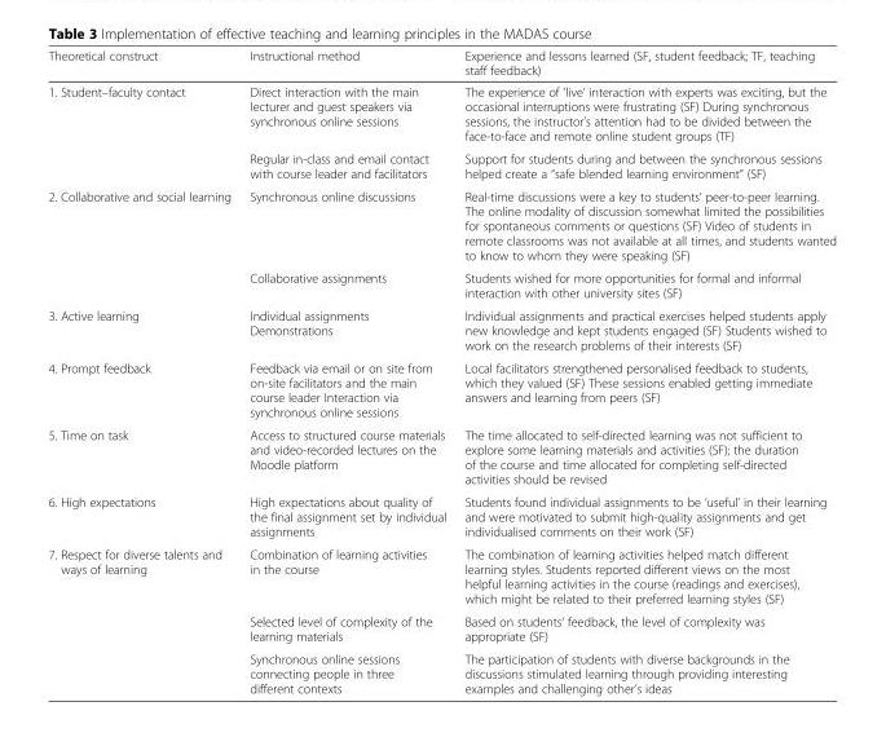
<table><thead><tr><td>Theoretical construct</td><td>Instructional method</td><td>Experience and lessons learned (SF, student feedback; TF, teaching staff feedback)</td></tr></thead><tbody><tr><td rowspan="2">1. Student–faculty contact</td><td>Direct interaction with the main lecturer and guest speakers via synchronous online sessions</td><td>The experience of ‘live’ interaction with experts was exciting, but the occasional interruptions were frustrating (SF) During synchronous sessions, the instructor’s attention had to be divided between the face-to-face and remote online student groups (TF)</td></tr><tr><td>Regular in-class and email contact with course leader and facilitators</td><td>Support for students during and between the synchronous sessions helped create a “safe blended learning environment” (SF)</td></tr><tr><td rowspan="2">2. Collaborative and social learning</td><td>Synchronous online discussions</td><td>Real-time discussions were a key to students’ peer-to-peer learning. The online modality of discussion somewhat limited the possibilities for spontaneous comments or questions (SF) Video of students in remote classrooms was not available at all times, and students wanted to know to whom they were speaking (SF)</td></tr><tr><td>Collaborative assignments</td><td>Students wished for more opportunities for formal and informal interaction with other university sites (SF)</td></tr><tr><td>3. Active learning</td><td>Individual assignments Demonstrations</td><td>Individual assignments and practical exercises helped students apply new knowledge and kept students engaged (SF) Students wished to work on the research problems of their interests (SF)</td></tr><tr><td>4. Prompt feedback</td><td>Feedback via email or on site from on-site facilitators and the main course leader Interaction via synchronous online sessions</td><td>Local facilitators strengthened personalised feedback to students, which they valued (SF) These sessions enabled getting immediate answers and learning from peers (SF)</td></tr><tr><td>5. Time on task</td><td>Access to structured course materials and video-recorded lectures on the Moodle platform</td><td>The time allocated to self-directed learning was not sufficient to explore some learning materials and activities (SF); the duration of the course and time allocated for completing self-directed activities should be revised</td></tr><tr><td>6. High expectations</td><td>High expectations about quality of the final assignment set by individual assignments</td><td>Students found individual assignments to be ‘useful’ in their learning and were motivated to submit high-quality assignments and get individualised comments on their work (SF)</td></tr><tr><td rowspan="3">7. Respect for diverse talents and ways of learning</td><td>Combination of learning activities in the course</td><td>The combination of learning activities helped match different learning styles. Students reported different views on the most helpful learning activities in the course (readings and exercises), which might be related to their preferred learning styles (SF)</td></tr><tr><td>Selected level of complexity of the learning materials</td><td>Based on students’ feedback, the level of complexity was appropriate (SF)</td></tr><tr><td>Synchronous online sessions connecting people in three different contexts</td><td>The participation of students with diverse backgrounds in the discussions stimulated learning through providing interesting examples and challenging other’s ideas</td></tr></tbody></table>